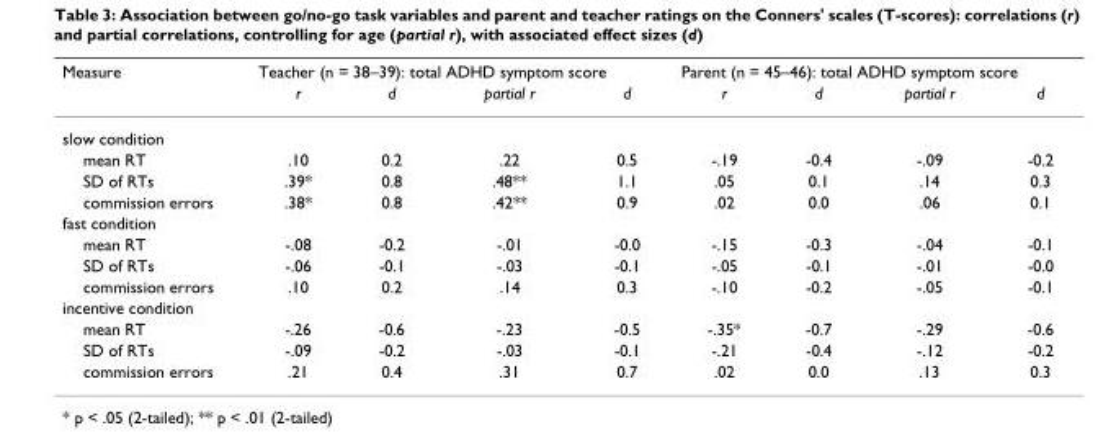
<table><thead><tr><td rowspan="2">Measure</td><td colspan="4">Teacher (n = 38–39): total ADHD symptom score</td><td colspan="4">Parent (n = 45–46): total ADHD symptom score</td></tr><tr><td>r</td><td>d</td><td>partial r</td><td>d</td><td>r</td><td>d</td><td>partial r</td><td>d</td></tr></thead><tbody><tr><td colspan="9">slow condition</td></tr><tr><td>mean RT</td><td>.10</td><td>0.2</td><td>.22</td><td>0.5</td><td>-.19</td><td>-0.4</td><td>-.09</td><td>-0.2</td></tr><tr><td>SD of RTs</td><td>.39*</td><td>0.8</td><td>.48**</td><td>1.1</td><td>.05</td><td>0.1</td><td>.14</td><td>0.3</td></tr><tr><td>commission errors</td><td>.38*</td><td>0.8</td><td>.42**</td><td>0.9</td><td>.02</td><td>0.0</td><td>.06</td><td>0.1</td></tr><tr><td colspan="9">fast condition</td></tr><tr><td>mean RT</td><td>-.08</td><td>-0.2</td><td>-.01</td><td>-0.0</td><td>-.15</td><td>-0.3</td><td>-.04</td><td>-0.1</td></tr><tr><td>SD of RTs</td><td>-.06</td><td>-0.1</td><td>-.03</td><td>-0.1</td><td>-.05</td><td>-0.1</td><td>-.01</td><td>-0.0</td></tr><tr><td>commission errors</td><td>.10</td><td>0.2</td><td>.14</td><td>0.3</td><td>-.10</td><td>-0.2</td><td>-.05</td><td>-0.1</td></tr><tr><td colspan="9">incentive condition</td></tr><tr><td>mean RT</td><td>-.26</td><td>-0.6</td><td>-.23</td><td>-0.5</td><td>-.35*</td><td>-0.7</td><td>-.29</td><td>-0.6</td></tr><tr><td>SD of RTs</td><td>-.09</td><td>-0.2</td><td>-.03</td><td>-0.1</td><td>-.21</td><td>-0.4</td><td>-.12</td><td>-0.2</td></tr><tr><td>commission errors</td><td>.21</td><td>0.4</td><td>.31</td><td>0.7</td><td>.02</td><td>0.0</td><td>.13</td><td>0.3</td></tr></tbody></table>